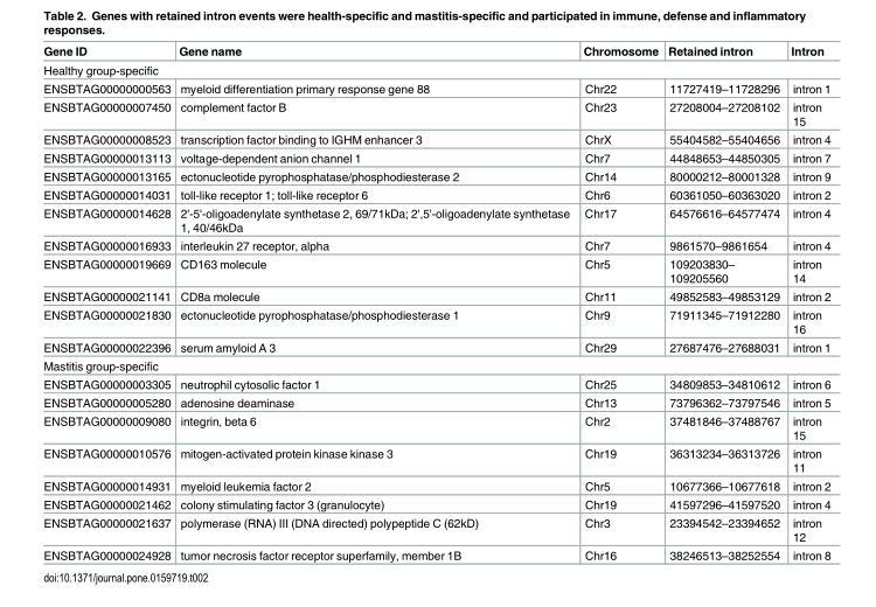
<table><thead><tr><td>Gene ID</td><td>Gene name</td><td>Chromosome</td><td>Retained intron</td><td>Intron</td></tr></thead><tbody><tr><td colspan="5">Healthy group-specific</td></tr><tr><td>ENSBTAG00000000563</td><td>myeloid differentiation primary response gene 88</td><td>Chr22</td><td>11727419–11728296</td><td>intron 1</td></tr><tr><td>ENSBTAG00000007450</td><td>complement factor B</td><td>Chr23</td><td>27208004–27208102</td><td>intron 15</td></tr><tr><td>ENSBTAG00000008523</td><td>transcription factor binding to IGHM enhancer 3</td><td>ChrX</td><td>55404582–55404656</td><td>intron 4</td></tr><tr><td>ENSBTAG00000013113</td><td>voltage-dependent anion channel 1</td><td>Chr7</td><td>44848653–44850305</td><td>intron 7</td></tr><tr><td>ENSBTAG00000013165</td><td>ectonucleotide pyrophosphatase/phosphodiesterase 2</td><td>Chr14</td><td>80000212–80001328</td><td>intron 9</td></tr><tr><td>ENSBTAG00000014031</td><td>toll-like receptor 1; toll-like receptor 6</td><td>Chr6</td><td>60361050–60363020</td><td>intron 2</td></tr><tr><td>ENSBTAG00000014628</td><td>2&#x27;-5&#x27;-oligoadenylate synthetase 2, 69/71kDa; 2&#x27;,5&#x27;-oligoadenylate synthetase 1, 40/46kDa</td><td>Chr17</td><td>64576616–64577474</td><td>intron 4</td></tr><tr><td>ENSBTAG00000016933</td><td>interleukin 27 receptor, alpha</td><td>Chr7</td><td>9861570–9861654</td><td>intron 4</td></tr><tr><td>ENSBTAG00000019669</td><td>CD163 molecule</td><td>Chr5</td><td>109203830– 109205560</td><td>intron 14</td></tr><tr><td>ENSBTAG00000021141</td><td>CD8a molecule</td><td>Chr11</td><td>49852583–49853129</td><td>intron 2</td></tr><tr><td>ENSBTAG00000021830</td><td>ectonucleotide pyrophosphatase/phosphodiesterase 1</td><td>Chr9</td><td>71911345–71912280</td><td>intron 16</td></tr><tr><td>ENSBTAG00000022396</td><td>serum amyloid A 3</td><td>Chr29</td><td>27687476–27688031</td><td>intron 1</td></tr><tr><td colspan="5">Mastitis group-specific</td></tr><tr><td>ENSBTAG00000003305</td><td>neutrophil cytosolic factor 1</td><td>Chr25</td><td>34809853–34810612</td><td>intron 6</td></tr><tr><td>ENSBTAG00000005280</td><td>adenosine deaminase</td><td>Chr13</td><td>73796362–73797546</td><td>intron 5</td></tr><tr><td>ENSBTAG00000009080</td><td>integrin, beta 6</td><td>Chr2</td><td>37481846–37488767</td><td>intron 15</td></tr><tr><td>ENSBTAG00000010576</td><td>mitogen-activated protein kinase kinase 3</td><td>Chr19</td><td>36313234–36313726</td><td>intron 11</td></tr><tr><td>ENSBTAG00000014931</td><td>myeloid leukemia factor 2</td><td>Chr5</td><td>10677366–10677618</td><td>intron 2</td></tr><tr><td>ENSBTAG00000021462</td><td>colony stimulating factor 3 (granulocyte)</td><td>Chr19</td><td>41597296–41597520</td><td>intron 4</td></tr><tr><td>ENSBTAG00000021637</td><td>polymerase (RNA) III (DNA directed) polypeptide C (62kD)</td><td>Chr3</td><td>23394542–23394652</td><td>intron 12</td></tr><tr><td>ENSBTAG00000024928</td><td>tumor necrosis factor receptor superfamily, member 1B</td><td>Chr16</td><td>38246513–38252554</td><td>intron 8</td></tr></tbody></table>